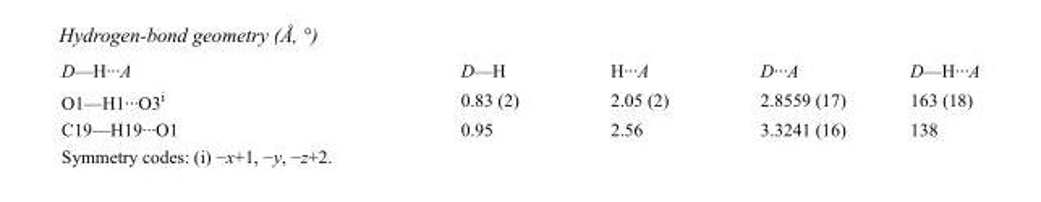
<table><tbody><tr><td>D—H···A</td><td>D—H</td><td>H···A</td><td>D···A</td><td>D—H···A</td></tr><tr><td>O1—H1···O3<sup>i</sup></td><td>0.83 (2)</td><td>2.05 (2)</td><td>2.8559 (17)</td><td>163 (18)</td></tr><tr><td>C19—H19···O1</td><td>0.95</td><td>2.56</td><td>3.3241 (16)</td><td>138</td></tr></tbody></table>